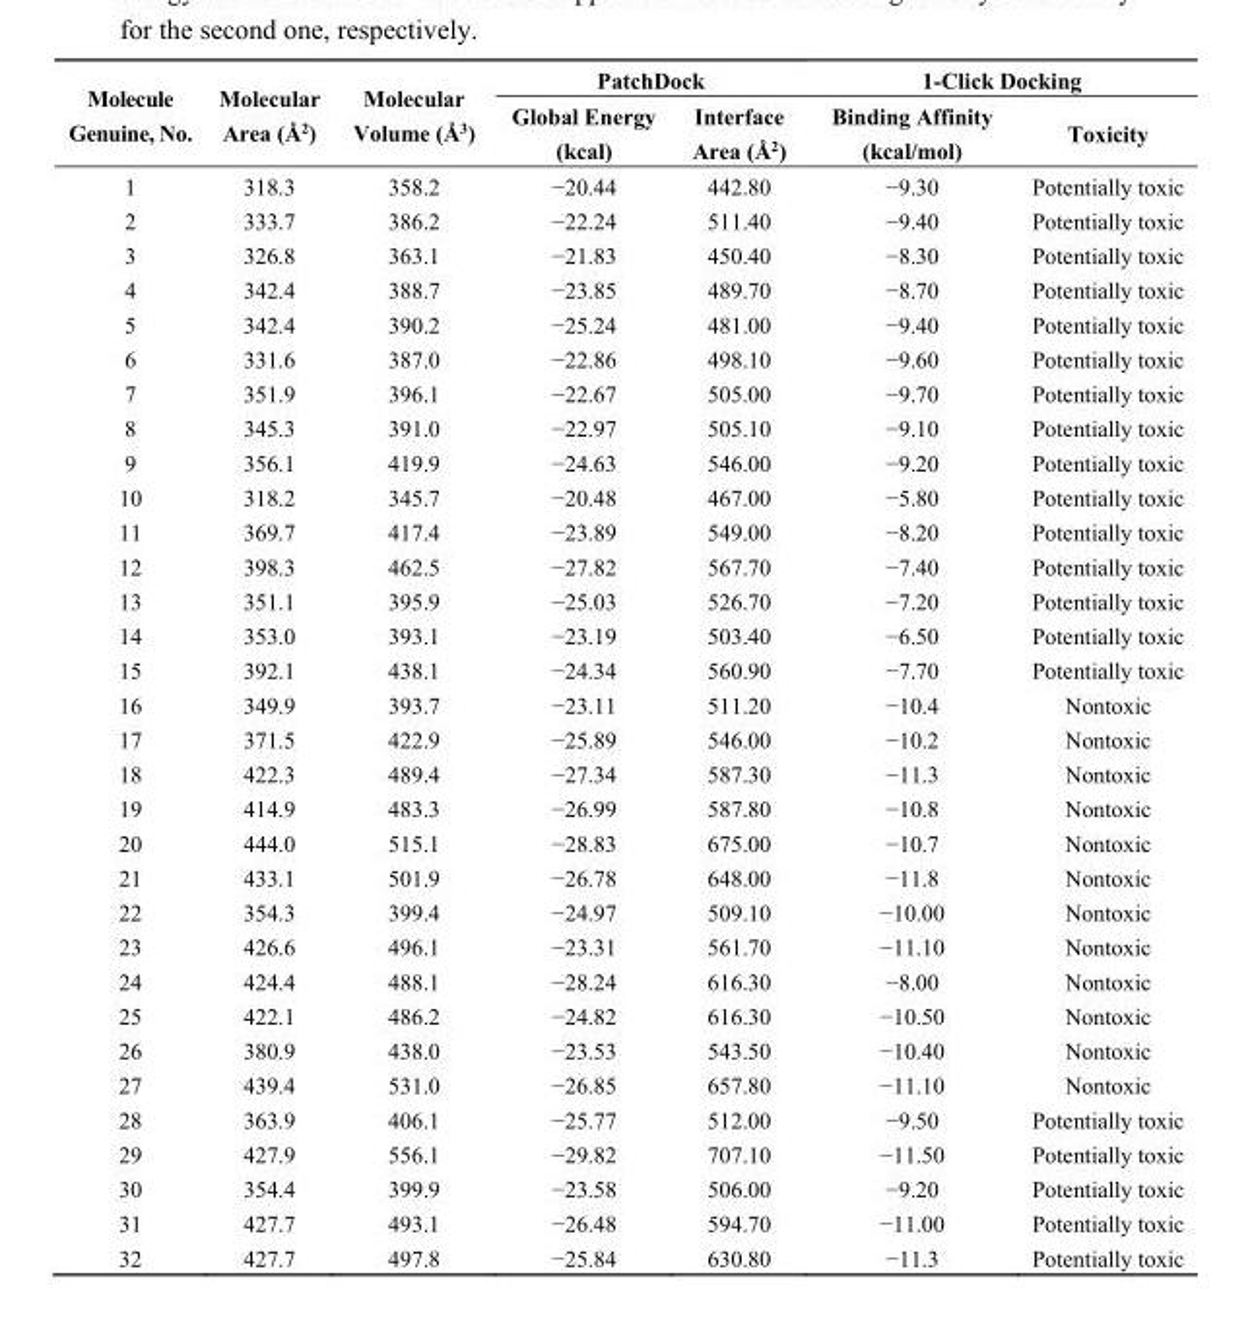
<table><thead><tr><td rowspan="2">Molecule Genuine, No.</td><td rowspan="2">Molecular Area (Å<sup>2</sup>)</td><td rowspan="2">Molecular Volume (Å<sup>3</sup>)</td><td colspan="2">PatchDock</td><td colspan="2">1-Click Docking</td></tr><tr><td>Global Energy (kcal)</td><td>Interface Area (Å<sup>2</sup>)</td><td>Binding Affinity (kcal/mol)</td><td>Toxicity</td></tr></thead><tbody><tr><td>1</td><td>318.3</td><td>358.2</td><td>−20.44</td><td>442.80</td><td>−9.30</td><td>Potentially toxic</td></tr><tr><td>2</td><td>333.7</td><td>386.2</td><td>−22.24</td><td>511.40</td><td>−9.40</td><td>Potentially toxic</td></tr><tr><td>3</td><td>326.8</td><td>363.1</td><td>−21.83</td><td>450.40</td><td>−8.30</td><td>Potentially toxic</td></tr><tr><td>4</td><td>342.4</td><td>388.7</td><td>−23.85</td><td>489.70</td><td>−8.70</td><td>Potentially toxic</td></tr><tr><td>5</td><td>342.4</td><td>390.2</td><td>−25.24</td><td>481.00</td><td>−9.40</td><td>Potentially toxic</td></tr><tr><td>6</td><td>331.6</td><td>387.0</td><td>−22.86</td><td>498.10</td><td>−9.60</td><td>Potentially toxic</td></tr><tr><td>7</td><td>351.9</td><td>396.1</td><td>−22.67</td><td>505.00</td><td>−9.70</td><td>Potentially toxic</td></tr><tr><td>8</td><td>345.3</td><td>391.0</td><td>−22.97</td><td>505.10</td><td>−9.10</td><td>Potentially toxic</td></tr><tr><td>9</td><td>356.1</td><td>419.9</td><td>−24.63</td><td>546.00</td><td>−9.20</td><td>Potentially toxic</td></tr><tr><td>10</td><td>318.2</td><td>345.7</td><td>−20.48</td><td>467.00</td><td>−5.80</td><td>Potentially toxic</td></tr><tr><td>11</td><td>369.7</td><td>417.4</td><td>−23.89</td><td>549.00</td><td>−8.20</td><td>Potentially toxic</td></tr><tr><td>12</td><td>398.3</td><td>462.5</td><td>−27.82</td><td>567.70</td><td>−7.40</td><td>Potentially toxic</td></tr><tr><td>13</td><td>351.1</td><td>395.9</td><td>−25.03</td><td>526.70</td><td>−7.20</td><td>Potentially toxic</td></tr><tr><td>14</td><td>353.0</td><td>393.1</td><td>−23.19</td><td>503.40</td><td>−6.50</td><td>Potentially toxic</td></tr><tr><td>15</td><td>392.1</td><td>438.1</td><td>−24.34</td><td>560.90</td><td>−7.70</td><td>Potentially toxic</td></tr><tr><td>16</td><td>349.9</td><td>393.7</td><td>−23.11</td><td>511.20</td><td>−10.4</td><td>Nontoxic</td></tr><tr><td>17</td><td>371.5</td><td>422.9</td><td>−25.89</td><td>546.00</td><td>−10.2</td><td>Nontoxic</td></tr><tr><td>18</td><td>422.3</td><td>489.4</td><td>−27.34</td><td>587.30</td><td>−11.3</td><td>Nontoxic</td></tr><tr><td>19</td><td>414.9</td><td>483.3</td><td>−26.99</td><td>587.80</td><td>−10.8</td><td>Nontoxic</td></tr><tr><td>20</td><td>444.0</td><td>515.1</td><td>−28.83</td><td>675.00</td><td>−10.7</td><td>Nontoxic</td></tr><tr><td>21</td><td>433.1</td><td>501.9</td><td>−26.78</td><td>648.00</td><td>−11.8</td><td>Nontoxic</td></tr><tr><td>22</td><td>354.3</td><td>399.4</td><td>−24.97</td><td>509.10</td><td>−10.00</td><td>Nontoxic</td></tr><tr><td>23</td><td>426.6</td><td>496.1</td><td>−23.31</td><td>561.70</td><td>−11.10</td><td>Nontoxic</td></tr><tr><td>24</td><td>424.4</td><td>488.1</td><td>−28.24</td><td>616.30</td><td>−8.00</td><td>Nontoxic</td></tr><tr><td>25</td><td>422.1</td><td>486.2</td><td>−24.82</td><td>616.30</td><td>−10.50</td><td>Nontoxic</td></tr><tr><td>26</td><td>380.9</td><td>438.0</td><td>−23.53</td><td>543.50</td><td>−10.40</td><td>Nontoxic</td></tr><tr><td>27</td><td>439.4</td><td>531.0</td><td>−26.85</td><td>657.80</td><td>−11.10</td><td>Nontoxic</td></tr><tr><td>28</td><td>363.9</td><td>406.1</td><td>−25.77</td><td>512.00</td><td>−9.50</td><td>Potentially toxic</td></tr><tr><td>29</td><td>427.9</td><td>556.1</td><td>−29.82</td><td>707.10</td><td>−11.50</td><td>Potentially toxic</td></tr><tr><td>30</td><td>354.4</td><td>399.9</td><td>−23.58</td><td>506.00</td><td>−9.20</td><td>Potentially toxic</td></tr><tr><td>31</td><td>427.7</td><td>493.1</td><td>−26.48</td><td>594.70</td><td>−11.00</td><td>Potentially toxic</td></tr><tr><td>32</td><td>427.7</td><td>497.8</td><td>−25.84</td><td>630.80</td><td>−11.3</td><td>Potentially toxic</td></tr></tbody></table>